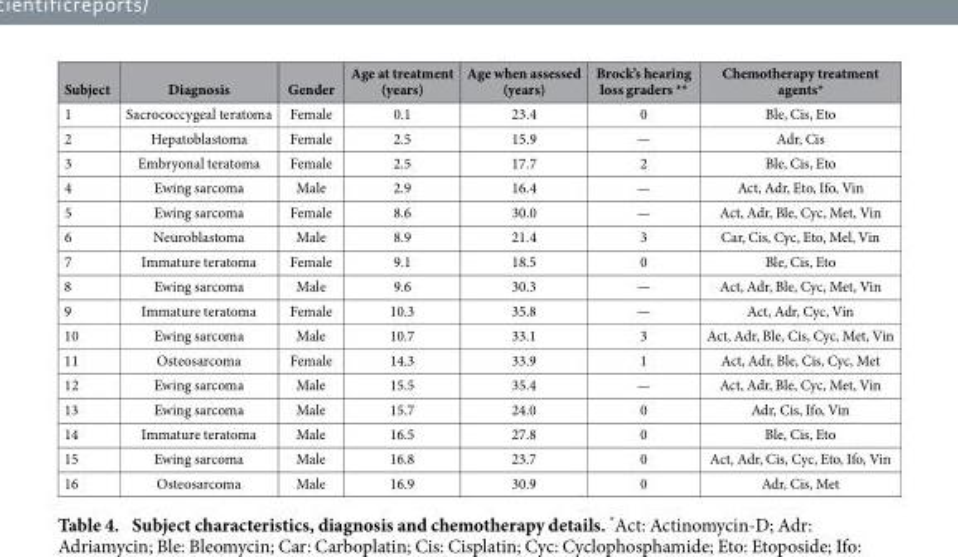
<table><thead><tr><td>Subject</td><td>Diagnosis</td><td>Gender</td><td>Age at treatment (years)</td><td>Age when assessed (years)</td><td>Brock’s hearing loss graders **</td><td>Chemotherapy treatment agents*</td></tr></thead><tbody><tr><td>1</td><td>Sacrococcygeal teratoma</td><td>Female</td><td>0.1</td><td>23.4</td><td>0</td><td>Ble, Cis, Eto</td></tr><tr><td>2</td><td>Hepatoblastoma</td><td>Female</td><td>2.5</td><td>15.9</td><td>—</td><td>Adr, Cis</td></tr><tr><td>3</td><td>Embryonal teratoma</td><td>Female</td><td>2.5</td><td>17.7</td><td>2</td><td>Ble, Cis, Eto</td></tr><tr><td>4</td><td>Ewing sarcoma</td><td>Male</td><td>2.9</td><td>16.4</td><td>—</td><td>Act, Adr, Eto, Ifo, Vin</td></tr><tr><td>5</td><td>Ewing sarcoma</td><td>Female</td><td>8.6</td><td>30.0</td><td>—</td><td>Act, Adr, Ble, Cyc, Met, Vin</td></tr><tr><td>6</td><td>Neuroblastoma</td><td>Male</td><td>8.9</td><td>21.4</td><td>3</td><td>Car, Cis, Cyc, Eto, Mel, Vin</td></tr><tr><td>7</td><td>Immature teratoma</td><td>Female</td><td>9.1</td><td>18.5</td><td>0</td><td>Ble, Cis, Eto</td></tr><tr><td>8</td><td>Ewing sarcoma</td><td>Male</td><td>9.6</td><td>30.3</td><td>—</td><td>Act, Adr, Ble, Cyc, Met, Vin</td></tr><tr><td>9</td><td>Immature teratoma</td><td>Female</td><td>10.3</td><td>35.8</td><td>—</td><td>Act, Adr, Cyc, Vin</td></tr><tr><td>10</td><td>Ewing sarcoma</td><td>Male</td><td>10.7</td><td>33.1</td><td>3</td><td>Act, Adr, Ble, Cis, Cyc, Met, Vin</td></tr><tr><td>11</td><td>Osteosarcoma</td><td>Female</td><td>14.3</td><td>33.9</td><td>1</td><td>Act, Adr, Ble, Cis, Cyc, Met</td></tr><tr><td>12</td><td>Ewing sarcoma</td><td>Male</td><td>15.5</td><td>35.4</td><td>—</td><td>Act, Adr, Ble, Cyc, Met, Vin</td></tr><tr><td>13</td><td>Ewing sarcoma</td><td>Male</td><td>15.7</td><td>24.0</td><td>0</td><td>Adr, Cis, Ifo, Vin</td></tr><tr><td>14</td><td>Immature teratoma</td><td>Male</td><td>16.5</td><td>27.8</td><td>0</td><td>Ble, Cis, Eto</td></tr><tr><td>15</td><td>Ewing sarcoma</td><td>Male</td><td>16.8</td><td>23.7</td><td>0</td><td>Act, Adr, Cis, Cyc, Eto, Ifo, Vin</td></tr><tr><td>16</td><td>Osteosarcoma</td><td>Male</td><td>16.9</td><td>30.9</td><td>0</td><td>Adr, Cis, Met</td></tr></tbody></table>